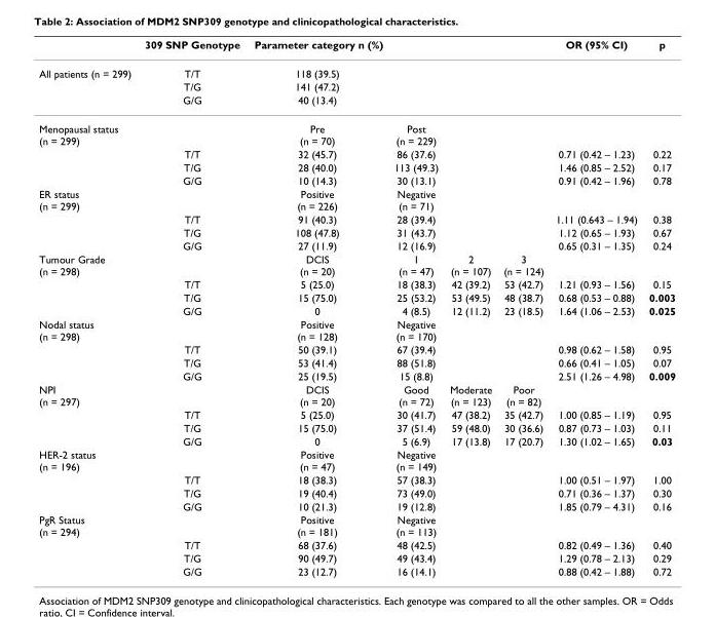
<table><thead><tr><td></td><td>309 SNP Genotype</td><td>Parameter category n (%)</td><td></td><td></td><td></td><td>OR (95% CI)</td><td>p</td></tr></thead><tbody><tr><td rowspan="3">All patients (n = 299)</td><td>T/T</td><td>118 (39.5)</td><td></td><td></td><td></td><td></td><td></td></tr><tr><td>T/G</td><td>141 (47.2)</td><td></td><td></td><td></td><td></td><td></td></tr><tr><td>G/G</td><td>40 (13.4)</td><td></td><td></td><td></td><td></td><td></td></tr><tr><td rowspan="4">Menopausal status (n = 299)</td><td></td><td>Pre (n = 70)</td><td>Post (n = 229)</td><td></td><td></td><td></td><td></td></tr><tr><td>T/T</td><td>32 (45.7)</td><td>86 (37.6)</td><td></td><td></td><td>0.71 (0.42 – 1.23)</td><td>0.22</td></tr><tr><td>T/G</td><td>28 (40.0)</td><td>113 (49.3)</td><td></td><td></td><td>1.46 (0.85 – 2.52)</td><td>0.17</td></tr><tr><td>G/G</td><td>10 (14.3)</td><td>30 (13.1)</td><td></td><td></td><td>0.91 (0.42 – 1.96)</td><td>0.78</td></tr><tr><td rowspan="4">ER status (n = 299)</td><td></td><td>Positive (n = 226)</td><td>Negative (n = 71)</td><td></td><td></td><td></td><td></td></tr><tr><td>T/T</td><td>91 (40.3)</td><td>28 (39.4)</td><td></td><td></td><td>1.11 (0.643 – 1.94)</td><td>0.38</td></tr><tr><td>T/G</td><td>108 (47.8)</td><td>31 (43.7)</td><td></td><td></td><td>1.12 (0.65 – 1.93)</td><td>0.67</td></tr><tr><td>G/G</td><td>27 (11.9)</td><td>12 (16.9)</td><td></td><td></td><td>0.65 (0.31 – 1.35)</td><td>0.24</td></tr><tr><td rowspan="4">Tumour Grade (n = 298)</td><td></td><td>DCIS (n = 20)</td><td>1 (n = 47)</td><td>2 (n = 107)</td><td>3 (n = 124)</td><td></td><td></td></tr><tr><td>T/T</td><td>5 (25.0)</td><td>18 (38.3)</td><td>42 (39.2)</td><td>53 (42.7)</td><td>1.21 (0.93 – 1.56)</td><td>0.15</td></tr><tr><td>T/G</td><td>15 (75.0)</td><td>25 (53.2)</td><td>53 (49.5)</td><td>48 (38.7)</td><td>0.68 (0.53 – 0.88)</td><td>0.003</td></tr><tr><td>G/G</td><td>0</td><td>4 (8.5)</td><td>12 (11.2)</td><td>23 (18.5)</td><td>1.64 (1.06 – 2.53)</td><td>0.025</td></tr><tr><td rowspan="4">Nodal status (n = 298)</td><td></td><td>Positive (n = 128)</td><td>Negative (n = 170)</td><td></td><td></td><td></td><td></td></tr><tr><td>T/T</td><td>50 (39.1)</td><td>67 (39.4)</td><td></td><td></td><td>0.98 (0.62 – 1.58)</td><td>0.95</td></tr><tr><td>T/G</td><td>53 (41.4)</td><td>88 (51.8)</td><td></td><td></td><td>0.66 (0.41 – 1.05)</td><td>0.07</td></tr><tr><td>G/G</td><td>25 (19.5)</td><td>15 (8.8)</td><td></td><td></td><td>2.51 (1.26 – 4.98)</td><td>0.009</td></tr><tr><td rowspan="4">NPI (n = 297)</td><td></td><td>DCIS (n = 20)</td><td>Good (n = 72)</td><td>Moderate (n = 123)</td><td>Poor (n = 82)</td><td></td><td></td></tr><tr><td>T/T</td><td>5 (25.0)</td><td>30 (41.7)</td><td>47 (38.2)</td><td>35 (42.7)</td><td>1.00 (0.85 – 1.19)</td><td>0.95</td></tr><tr><td>T/G</td><td>15 (75.0)</td><td>37 (51.4)</td><td>59 (48.0)</td><td>30 (36.6)</td><td>0.87 (0.73 – 1.03)</td><td>0.11</td></tr><tr><td>G/G</td><td>0</td><td>5 (6.9)</td><td>17 (13.8)</td><td>17 (20.7)</td><td>1.30 (1.02 – 1.65)</td><td>0.03</td></tr><tr><td rowspan="4">HER-2 status (n = 196)</td><td></td><td>Positive (n = 47)</td><td>Negative (n = 149)</td><td></td><td></td><td></td><td></td></tr><tr><td>T/T</td><td>18 (38.3)</td><td>57 (38.3)</td><td></td><td></td><td>1.00 (0.51 – 1.97)</td><td>1.00</td></tr><tr><td>T/G</td><td>19 (40.4)</td><td>73 (49.0)</td><td></td><td></td><td>0.71 (0.36 – 1.37)</td><td>0.30</td></tr><tr><td>G/G</td><td>10 (21.3)</td><td>19 (12.8)</td><td></td><td></td><td>1.85 (0.79 – 4.31)</td><td>0.16</td></tr><tr><td rowspan="4">PgR Status (n = 294)</td><td></td><td>Positive (n = 181)</td><td>Negative (n = 113)</td><td></td><td></td><td></td><td></td></tr><tr><td>T/T</td><td>68 (37.6)</td><td>48 (42.5)</td><td></td><td></td><td>0.82 (0.49 – 1.36)</td><td>0.40</td></tr><tr><td>T/G</td><td>90 (49.7)</td><td>49 (43.4)</td><td></td><td></td><td>1.29 (0.78 – 2.13)</td><td>0.29</td></tr><tr><td>G/G</td><td>23 (12.7)</td><td>16 (14.1)</td><td></td><td></td><td>0.88 (0.42 – 1.88)</td><td>0.72</td></tr></tbody></table>